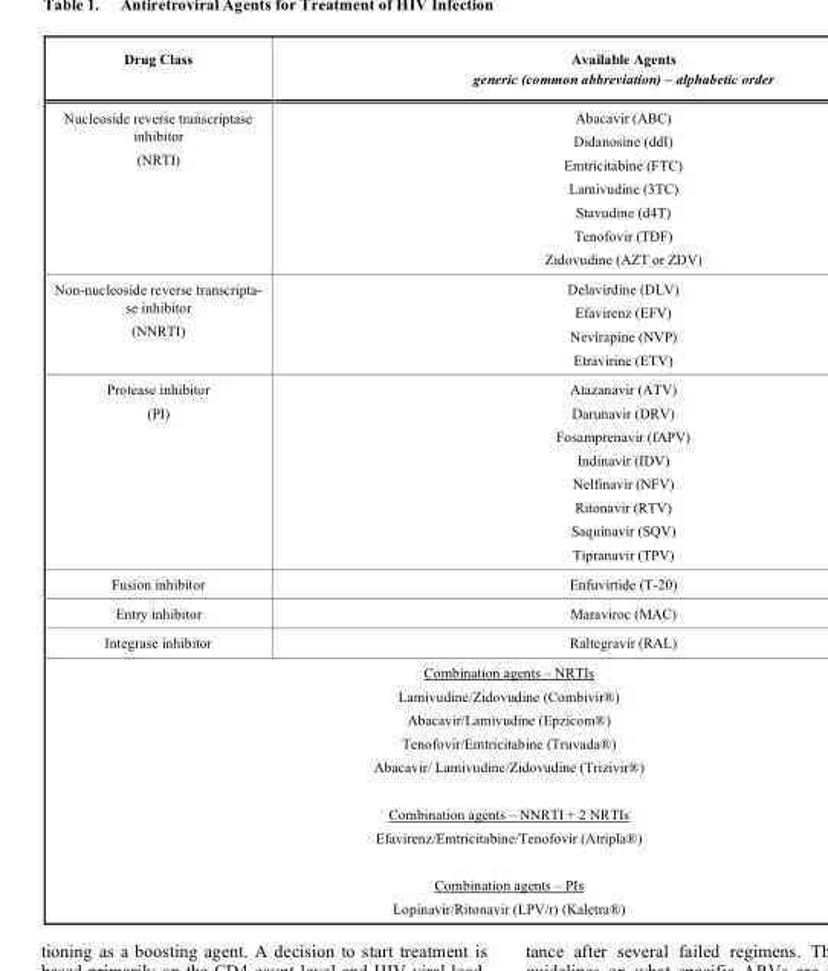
<table><thead><tr><td>Drug Class</td><td>Available Agents generic (common abbreviation) – alphabetic order</td></tr></thead><tbody><tr><td>Nucleoside reverse transcriptase inhibitor (NRTI)</td><td>Abacavir (ABC) Didanosine (ddI) Emtricitabine (FTC) Lamivudine (3TC) Stavudine (d4T) Tenofovir (TDF) Zidovudine (AZT or ZDV)</td></tr><tr><td>Non-nucleoside reverse transcripta- se inhibitor (NNRTI)</td><td>Delavirdine (DLV) Efavirenz (EFV) Nevirapine (NVP) Etravirine (ETV)</td></tr><tr><td>Protease inhibitor (PI)</td><td>Atazanavir (ATV) Darunavir (DRV) Fosamprenavir (fAPV) Indinavir (IDV) Nelfinavir (NFV) Ritonavir (RTV) Saquinavir (SQV) Tipranavir (TPV)</td></tr><tr><td>Fusion inhibitor</td><td>Enfuvirtide (T-20)</td></tr><tr><td>Entry inhibitor</td><td>Maraviroc (MAC)</td></tr><tr><td>Integrase inhibitor</td><td>Raltegravir (RAL)</td></tr><tr><td colspan="2">Combination agents – NRTIs Lamivudine/Zidovudine (Combivir®) Abacavir/Lamivudine (Epzicom®) Tenofovir/Emtricitabine (Truvada®) Abacavir/ Lamivudine/Zidovudine (Trizivir®) Combination agents – NNRTI + 2 NRTIs Efavirenz/Emtricitabine/Tenofovir (Atripla®) Combination agents – PIs Lopinavir/Ritonavir (LPV/r) (Kaletra®)</td></tr></tbody></table>